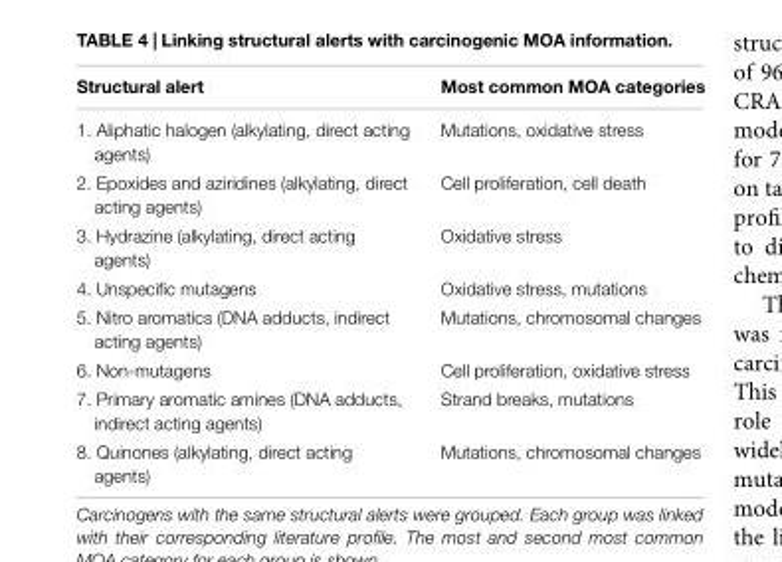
<table><thead><tr><td>Structural alert</td><td>Most common MOA categories</td></tr></thead><tbody><tr><td>1. Aliphatic halogen (alkylating, direct acting agents)</td><td>Mutations, oxidative stress</td></tr><tr><td>2. Epoxides and aziridines (alkylating, direct acting agents)</td><td>Cell proliferation, cell death</td></tr><tr><td>3. Hydrazine (alkylating, direct acting agents)</td><td>Oxidative stress</td></tr><tr><td>4. Unspecific mutagens</td><td>Oxidative stress, mutations</td></tr><tr><td>5. Nitro aromatics (DNA adducts, indirect acting agents)</td><td>Mutations, chromosomal changes</td></tr><tr><td>6. Non-mutagens</td><td>Cell proliferation, oxidative stress</td></tr><tr><td>7. Primary aromatic amines (DNA adducts, indirect acting agents)</td><td>Strand breaks, mutations</td></tr><tr><td>8. Quinones (alkylating, direct acting agents)</td><td>Mutations, chromosomal changes</td></tr></tbody></table>